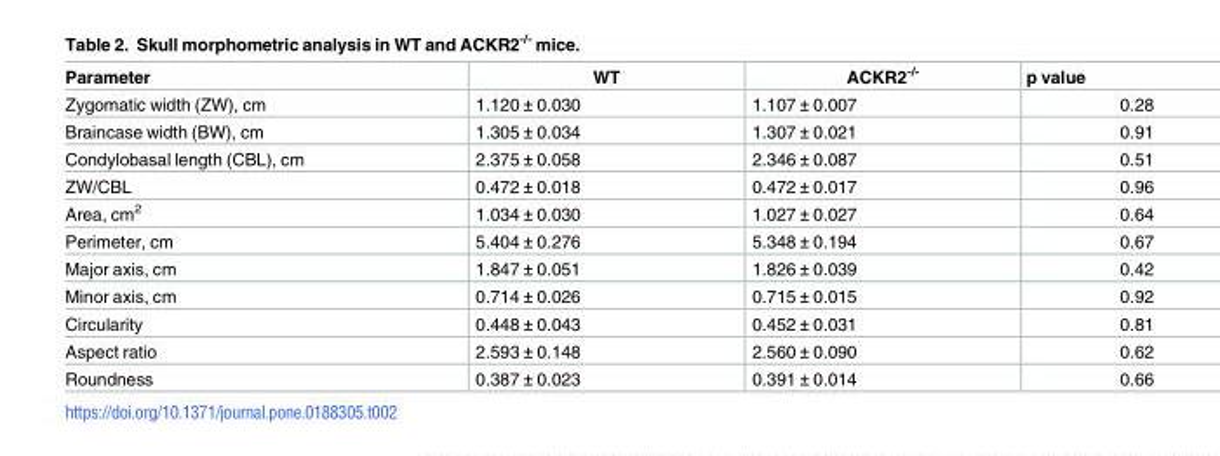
<table><thead><tr><td>Parameter</td><td>WT</td><td>ACKR2<sup>-/-</sup></td><td>p value</td></tr></thead><tbody><tr><td>Zygomatic width (ZW), cm</td><td>1.120 ± 0.030</td><td>1.107 ± 0.007</td><td>0.28</td></tr><tr><td>Braincase width (BW), cm</td><td>1.305 ± 0.034</td><td>1.307 ± 0.021</td><td>0.91</td></tr><tr><td>Condylobasal length (CBL), cm</td><td>2.375 ± 0.058</td><td>2.346 ± 0.087</td><td>0.51</td></tr><tr><td>ZW/CBL</td><td>0.472 ± 0.018</td><td>0.472 ± 0.017</td><td>0.96</td></tr><tr><td>Area, cm<sup>2</sup></td><td>1.034 ± 0.030</td><td>1.027 ± 0.027</td><td>0.64</td></tr><tr><td>Perimeter, cm</td><td>5.404 ± 0.276</td><td>5.348 ± 0.194</td><td>0.67</td></tr><tr><td>Major axis, cm</td><td>1.847 ± 0.051</td><td>1.826 ± 0.039</td><td>0.42</td></tr><tr><td>Minor axis, cm</td><td>0.714 ± 0.026</td><td>0.715 ± 0.015</td><td>0.92</td></tr><tr><td>Circularity</td><td>0.448 ± 0.043</td><td>0.452 ± 0.031</td><td>0.81</td></tr><tr><td>Aspect ratio</td><td>2.593 ± 0.148</td><td>2.560 ± 0.090</td><td>0.62</td></tr><tr><td>Roundness</td><td>0.387 ± 0.023</td><td>0.391 ± 0.014</td><td>0.66</td></tr></tbody></table>